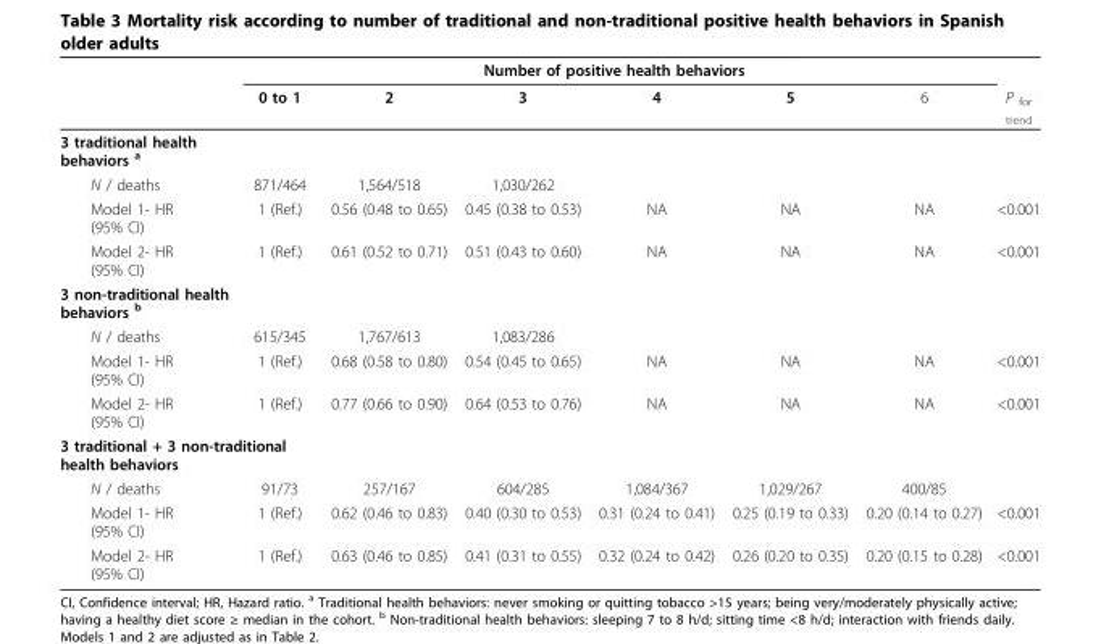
<table><thead><tr><td rowspan="2"></td><td colspan="6">Number of positive health behaviors</td><td rowspan="2">P <sub>for trend</sub></td></tr><tr><td>0 to 1</td><td>2</td><td>3</td><td>4</td><td>5</td><td>6</td></tr></thead><tbody><tr><td colspan="8">3 traditional health behaviors <sup>a</sup></td></tr><tr><td>N / deaths</td><td>871/464</td><td>1,564/518</td><td>1,030/262</td><td></td><td></td><td></td><td></td></tr><tr><td>Model 1- HR (95% CI)</td><td>1 (Ref.)</td><td>0.56 (0.48 to 0.65)</td><td>0.45 (0.38 to 0.53)</td><td>NA</td><td>NA</td><td>NA</td><td>&lt;0.001</td></tr><tr><td>Model 2- HR (95% CI)</td><td>1 (Ref.)</td><td>0.61 (0.52 to 0.71)</td><td>0.51 (0.43 to 0.60)</td><td>NA</td><td>NA</td><td>NA</td><td>&lt;0.001</td></tr><tr><td colspan="8">3 non-traditional health behaviors <sup>b</sup></td></tr><tr><td>N / deaths</td><td>615/345</td><td>1,767/613</td><td>1,083/286</td><td></td><td></td><td></td><td></td></tr><tr><td>Model 1- HR (95% CI)</td><td>1 (Ref.)</td><td>0.68 (0.58 to 0.80)</td><td>0.54 (0.45 to 0.65)</td><td>NA</td><td>NA</td><td>NA</td><td>&lt;0.001</td></tr><tr><td>Model 2- HR (95% CI)</td><td>1 (Ref.)</td><td>0.77 (0.66 to 0.90)</td><td>0.64 (0.53 to 0.76)</td><td>NA</td><td>NA</td><td>NA</td><td>&lt;0.001</td></tr><tr><td colspan="8">3 traditional + 3 non-traditional health behaviors</td></tr><tr><td>N / deaths</td><td>91/73</td><td>257/167</td><td>604/285</td><td>1,084/367</td><td>1,029/267</td><td>400/85</td><td></td></tr><tr><td>Model 1- HR (95% CI)</td><td>1 (Ref.)</td><td>0.62 (0.46 to 0.83)</td><td>0.40 (0.30 to 0.53)</td><td>0.31 (0.24 to 0.41)</td><td>0.25 (0.19 to 0.33)</td><td>0.20 (0.14 to 0.27)</td><td>&lt;0.001</td></tr><tr><td>Model 2- HR (95% CI)</td><td>1 (Ref.)</td><td>0.63 (0.46 to 0.85)</td><td>0.41 (0.31 to 0.55)</td><td>0.32 (0.24 to 0.42)</td><td>0.26 (0.20 to 0.35)</td><td>0.20 (0.15 to 0.28)</td><td>&lt;0.001</td></tr></tbody></table>